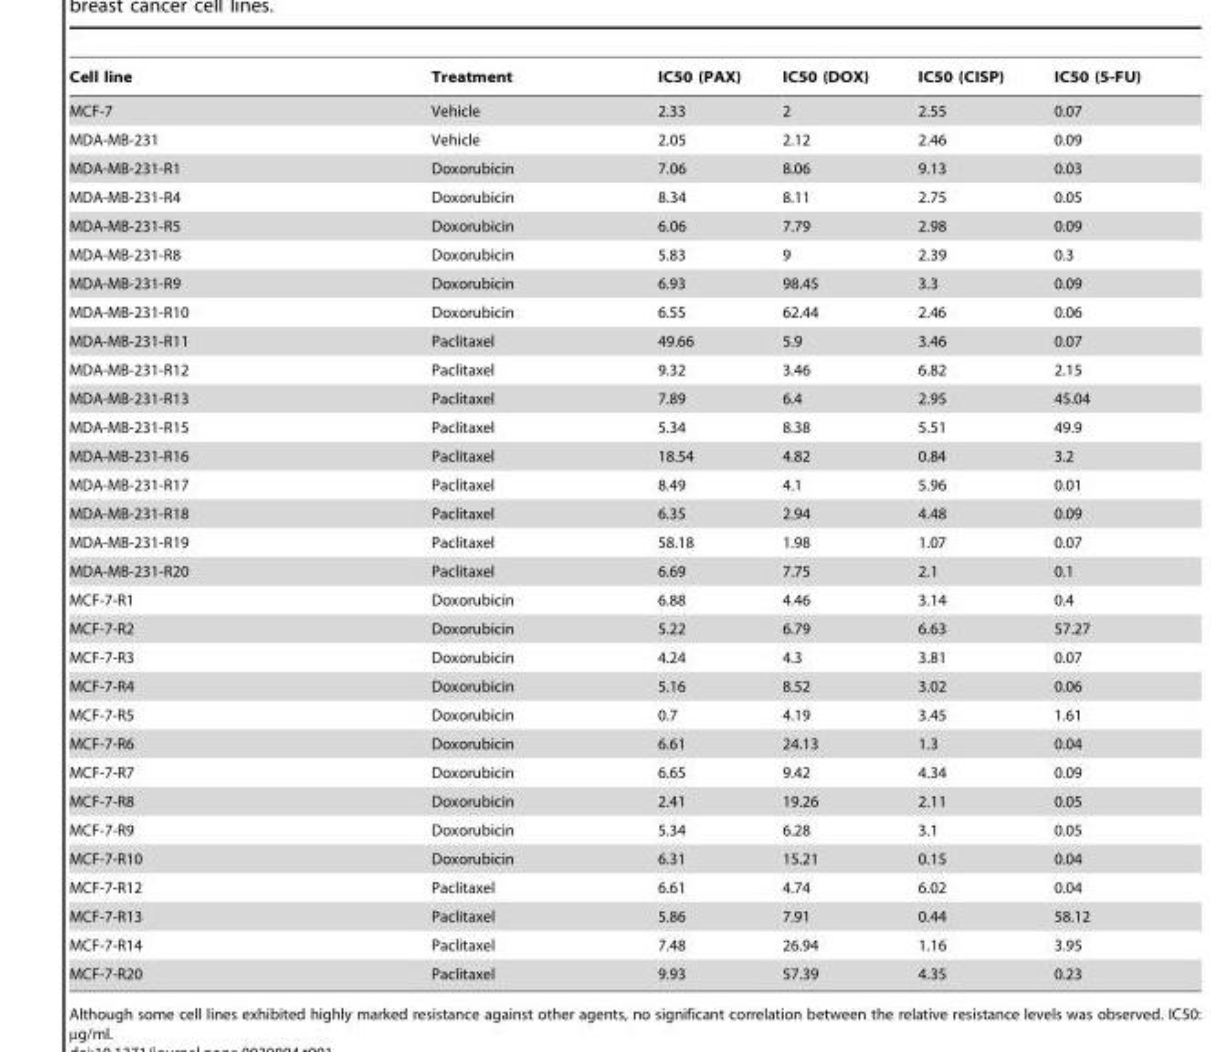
<table><thead><tr><td>Cell line</td><td>Treatment</td><td>IC50 (PAX)</td><td>IC50 (DOX)</td><td>IC50 (CISP)</td><td>IC50 (5-FU)</td></tr></thead><tbody><tr><td>MCF-7</td><td>Vehicle</td><td>2.33</td><td>2</td><td>2.55</td><td>0.07</td></tr><tr><td>MDA-MB-231</td><td>Vehicle</td><td>2.05</td><td>2.12</td><td>2.46</td><td>0.09</td></tr><tr><td>MDA-MB-231-R1</td><td>Doxorubicin</td><td>7.06</td><td>8.06</td><td>9.13</td><td>0.03</td></tr><tr><td>MDA-MB-231-R4</td><td>Doxorubicin</td><td>8.34</td><td>8.11</td><td>2.75</td><td>0.05</td></tr><tr><td>MDA-MB-231-R5</td><td>Doxorubicin</td><td>6.06</td><td>7.79</td><td>2.98</td><td>0.09</td></tr><tr><td>MDA-MB-231-R8</td><td>Doxorubicin</td><td>5.83</td><td>9</td><td>2.39</td><td>0.3</td></tr><tr><td>MDA-MB-231-R9</td><td>Doxorubicin</td><td>6.93</td><td>98.45</td><td>3.3</td><td>0.09</td></tr><tr><td>MDA-MB-231-R10</td><td>Doxorubicin</td><td>6.55</td><td>62.44</td><td>2.46</td><td>0.06</td></tr><tr><td>MDA-MB-231-R11</td><td>Paclitaxel</td><td>49.66</td><td>5.9</td><td>3.46</td><td>0.07</td></tr><tr><td>MDA-MB-231-R12</td><td>Paclitaxel</td><td>9.32</td><td>3.46</td><td>6.82</td><td>2.15</td></tr><tr><td>MDA-MB-231-R13</td><td>Paclitaxel</td><td>7.89</td><td>6.4</td><td>2.95</td><td>45.04</td></tr><tr><td>MDA-MB-231-R15</td><td>Paclitaxel</td><td>5.34</td><td>8.38</td><td>5.51</td><td>49.9</td></tr><tr><td>MDA-MB-231-R16</td><td>Paclitaxel</td><td>18.54</td><td>4.82</td><td>0.84</td><td>3.2</td></tr><tr><td>MDA-MB-231-R17</td><td>Paclitaxel</td><td>8.49</td><td>4.1</td><td>5.96</td><td>0.01</td></tr><tr><td>MDA-MB-231-R18</td><td>Paclitaxel</td><td>6.35</td><td>2.94</td><td>4.48</td><td>0.09</td></tr><tr><td>MDA-MB-231-R19</td><td>Paclitaxel</td><td>58.18</td><td>1.98</td><td>1.07</td><td>0.07</td></tr><tr><td>MDA-MB-231-R20</td><td>Paclitaxel</td><td>6.69</td><td>7.75</td><td>2.1</td><td>0.1</td></tr><tr><td>MCF-7-R1</td><td>Doxorubicin</td><td>6.88</td><td>4.46</td><td>3.14</td><td>0.4</td></tr><tr><td>MCF-7-R2</td><td>Doxorubicin</td><td>5.22</td><td>6.79</td><td>6.63</td><td>57.27</td></tr><tr><td>MCF-7-R3</td><td>Doxorubicin</td><td>4.24</td><td>4.3</td><td>3.81</td><td>0.07</td></tr><tr><td>MCF-7-R4</td><td>Doxorubicin</td><td>5.16</td><td>8.52</td><td>3.02</td><td>0.06</td></tr><tr><td>MCF-7-R5</td><td>Doxorubicin</td><td>0.7</td><td>4.19</td><td>3.45</td><td>1.61</td></tr><tr><td>MCF-7-R6</td><td>Doxorubicin</td><td>6.61</td><td>24.13</td><td>1.3</td><td>0.04</td></tr><tr><td>MCF-7-R7</td><td>Doxorubicin</td><td>6.65</td><td>9.42</td><td>4.34</td><td>0.09</td></tr><tr><td>MCF-7-R8</td><td>Doxorubicin</td><td>2.41</td><td>19.26</td><td>2.11</td><td>0.05</td></tr><tr><td>MCF-7-R9</td><td>Doxorubicin</td><td>5.34</td><td>6.28</td><td>3.1</td><td>0.05</td></tr><tr><td>MCF-7-R10</td><td>Doxorubicin</td><td>6.31</td><td>15.21</td><td>0.15</td><td>0.04</td></tr><tr><td>MCF-7-R12</td><td>Paclitaxel</td><td>6.61</td><td>4.74</td><td>6.02</td><td>0.04</td></tr><tr><td>MCF-7-R13</td><td>Paclitaxel</td><td>5.86</td><td>7.91</td><td>0.44</td><td>58.12</td></tr><tr><td>MCF-7-R14</td><td>Paclitaxel</td><td>7.48</td><td>26.94</td><td>1.16</td><td>3.95</td></tr><tr><td>MCF-7-R20</td><td>Paclitaxel</td><td>9.93</td><td>57.39</td><td>4.35</td><td>0.23</td></tr></tbody></table>